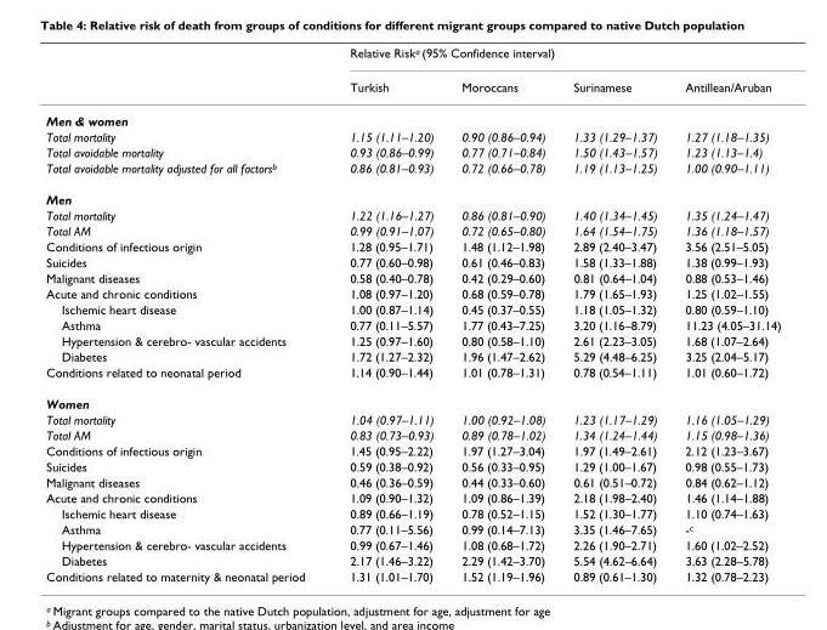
<table><thead><tr><td rowspan="2"></td><td colspan="4">Relative Riska (95% Confidence interval)</td></tr><tr><td>Turkish</td><td>Moroccans</td><td>Surinamese</td><td>Antillean/Aruban</td></tr></thead><tbody><tr><td colspan="5">Men &amp; women</td></tr><tr><td>Total mortality</td><td>1.15 (1.11–1.20)</td><td>0.90 (0.86–0.94)</td><td>1.33 (1.29–1.37)</td><td>1.27 (1.18–1.35)</td></tr><tr><td>Total avoidable mortality</td><td>0.93 (0.86–0.99)</td><td>0.77 (0.71–0.84)</td><td>1.50 (1.43–1.57)</td><td>1.23 (1.13–1.4)</td></tr><tr><td>Total avoidable mortality adjusted for all factorsb</td><td>0.86 (0.81–0.93)</td><td>0.72 (0.66–0.78)</td><td>1.19 (1.13–1.25)</td><td>1.00 (0.90–1.11)</td></tr><tr><td colspan="5">Men</td></tr><tr><td>Total mortality</td><td>1.22 (1.16–1.27)</td><td>0.86 (0.81–0.90)</td><td>1.40 (1.34–1.45)</td><td>1.35 (1.24–1.47)</td></tr><tr><td>Total AM</td><td>0.99 (0.91–1.07)</td><td>0.72 (0.65–0.80)</td><td>1.64 (1.54–1.75)</td><td>1.36 (1.18–1.57)</td></tr><tr><td>Conditions of infectious origin</td><td>1.28 (0.95–1.71)</td><td>1.48 (1.12–1.98)</td><td>2.89 (2.40–3.47)</td><td>3.56 (2.51–5.05)</td></tr><tr><td>Suicides</td><td>0.77 (0.60–0.98)</td><td>0.61 (0.46–0.83)</td><td>1.58 (1.33–1.88)</td><td>1.38 (0.99–1.93)</td></tr><tr><td>Malignant diseases</td><td>0.58 (0.40–0.78)</td><td>0.42 (0.29–0.60)</td><td>0.81 (0.64–1.04)</td><td>0.88 (0.53–1.46)</td></tr><tr><td>Acute and chronic conditions</td><td>1.08 (0.97–1.20)</td><td>0.68 (0.59–0.78)</td><td>1.79 (1.65–1.93)</td><td>1.25 (1.02–1.55)</td></tr><tr><td>Ischemic heart disease</td><td>1.00 (0.87–1.14)</td><td>0.45 (0.37–0.55)</td><td>1.18 (1.05–1.32)</td><td>0.80 (0.59–1.10)</td></tr><tr><td>Asthma</td><td>0.77 (0.11–5.57)</td><td>1.77 (0.43–7.25)</td><td>3.20 (1.16–8.79)</td><td>11.23 (4.05–31.14)</td></tr><tr><td>Hypertension &amp; cerebro- vascular accidents</td><td>1.25 (0.97–1.60)</td><td>0.80 (0.58–1.10)</td><td>2.61 (2.23–3.05)</td><td>1.68 (1.07–2.64)</td></tr><tr><td>Diabetes</td><td>1.72 (1.27–2.32)</td><td>1.96 (1.47–2.62)</td><td>5.29 (4.48–6.25)</td><td>3.25 (2.04–5.17)</td></tr><tr><td>Conditions related to neonatal period</td><td>1.14 (0.90–1.44)</td><td>1.01 (0.78–1.31)</td><td>0.78 (0.54–1.11)</td><td>1.01 (0.60–1.72)</td></tr><tr><td colspan="5">Women</td></tr><tr><td>Total mortality</td><td>1.04 (0.97–1.11)</td><td>1.00 (0.92–1.08)</td><td>1.23 (1.17–1.29)</td><td>1.16 (1.05–1.29)</td></tr><tr><td>Total AM</td><td>0.83 (0.73–0.93)</td><td>0.89 (0.78–1.02)</td><td>1.34 (1.24–1.44)</td><td>1.15 (0.98–1.36)</td></tr><tr><td>Conditions of infectious origin</td><td>1.45 (0.95–2.22)</td><td>1.97 (1.27–3.04)</td><td>1.97 (1.49–2.61)</td><td>2.12 (1.23–3.67)</td></tr><tr><td>Suicides</td><td>0.59 (0.38–0.92)</td><td>0.56 (0.33–0.95)</td><td>1.29 (1.00–1.67)</td><td>0.98 (0.55–1.73)</td></tr><tr><td>Malignant diseases</td><td>0.46 (0.36–0.59)</td><td>0.44 (0.33–0.60)</td><td>0.61 (0.51–0.72)</td><td>0.84 (0.62–1.12)</td></tr><tr><td>Acute and chronic conditions</td><td>1.09 (0.90–1.32)</td><td>1.09 (0.86–1.39)</td><td>2.18 (1.98–2.40)</td><td>1.46 (1.14–1.88)</td></tr><tr><td>Ischemic heart disease</td><td>0.89 (0.66–1.19)</td><td>0.78 (0.52–1.15)</td><td>1.52 (1.30–1.77)</td><td>1.10 (0.74–1.63)</td></tr><tr><td>Asthma</td><td>0.77 (0.11–5.56)</td><td>0.99 (0.14–7.13)</td><td>3.35 (1.46–7.65)</td><td>-c</td></tr><tr><td>Hypertension &amp; cerebro- vascular accidents</td><td>0.99 (0.67–1.46)</td><td>1.08 (0.68–1.72)</td><td>2.26 (1.90–2.71)</td><td>1.60 (1.02–2.52)</td></tr><tr><td>Diabetes</td><td>2.17 (1.46–3.22)</td><td>2.29 (1.42–3.70)</td><td>5.54 (4.62–6.64)</td><td>3.63 (2.28–5.78)</td></tr><tr><td>Conditions related to maternity &amp; neonatal period</td><td>1.31 (1.01–1.70)</td><td>1.52 (1.19–1.96)</td><td>0.89 (0.61–1.30)</td><td>1.32 (0.78–2.23)</td></tr></tbody></table>